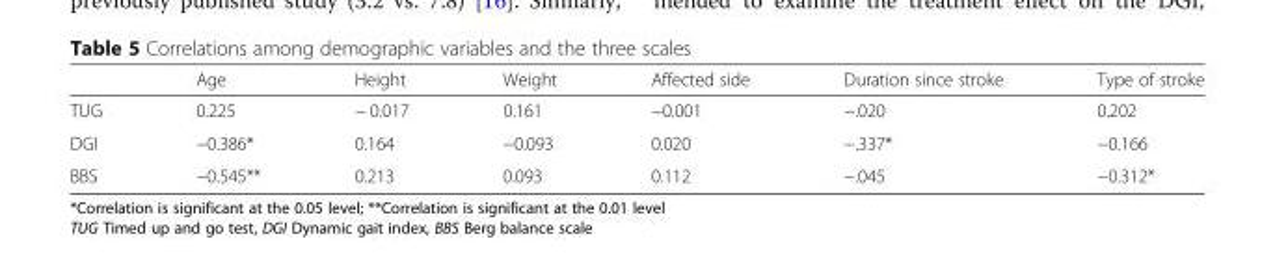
<table><thead><tr><td></td><td>Age</td><td>Height</td><td>Weight</td><td>Affected side</td><td>Duration since stroke</td><td>Type of stroke</td></tr></thead><tbody><tr><td>TUG</td><td>0.225</td><td>− 0.017</td><td>0.161</td><td>−0.001</td><td>−.020</td><td>0.202</td></tr><tr><td>DGI</td><td>−0.386*</td><td>0.164</td><td>−0.093</td><td>0.020</td><td>−.337*</td><td>−0.166</td></tr><tr><td>BBS</td><td>−0.545**</td><td>0.213</td><td>0.093</td><td>0.112</td><td>−.045</td><td>−0.312*</td></tr></tbody></table>